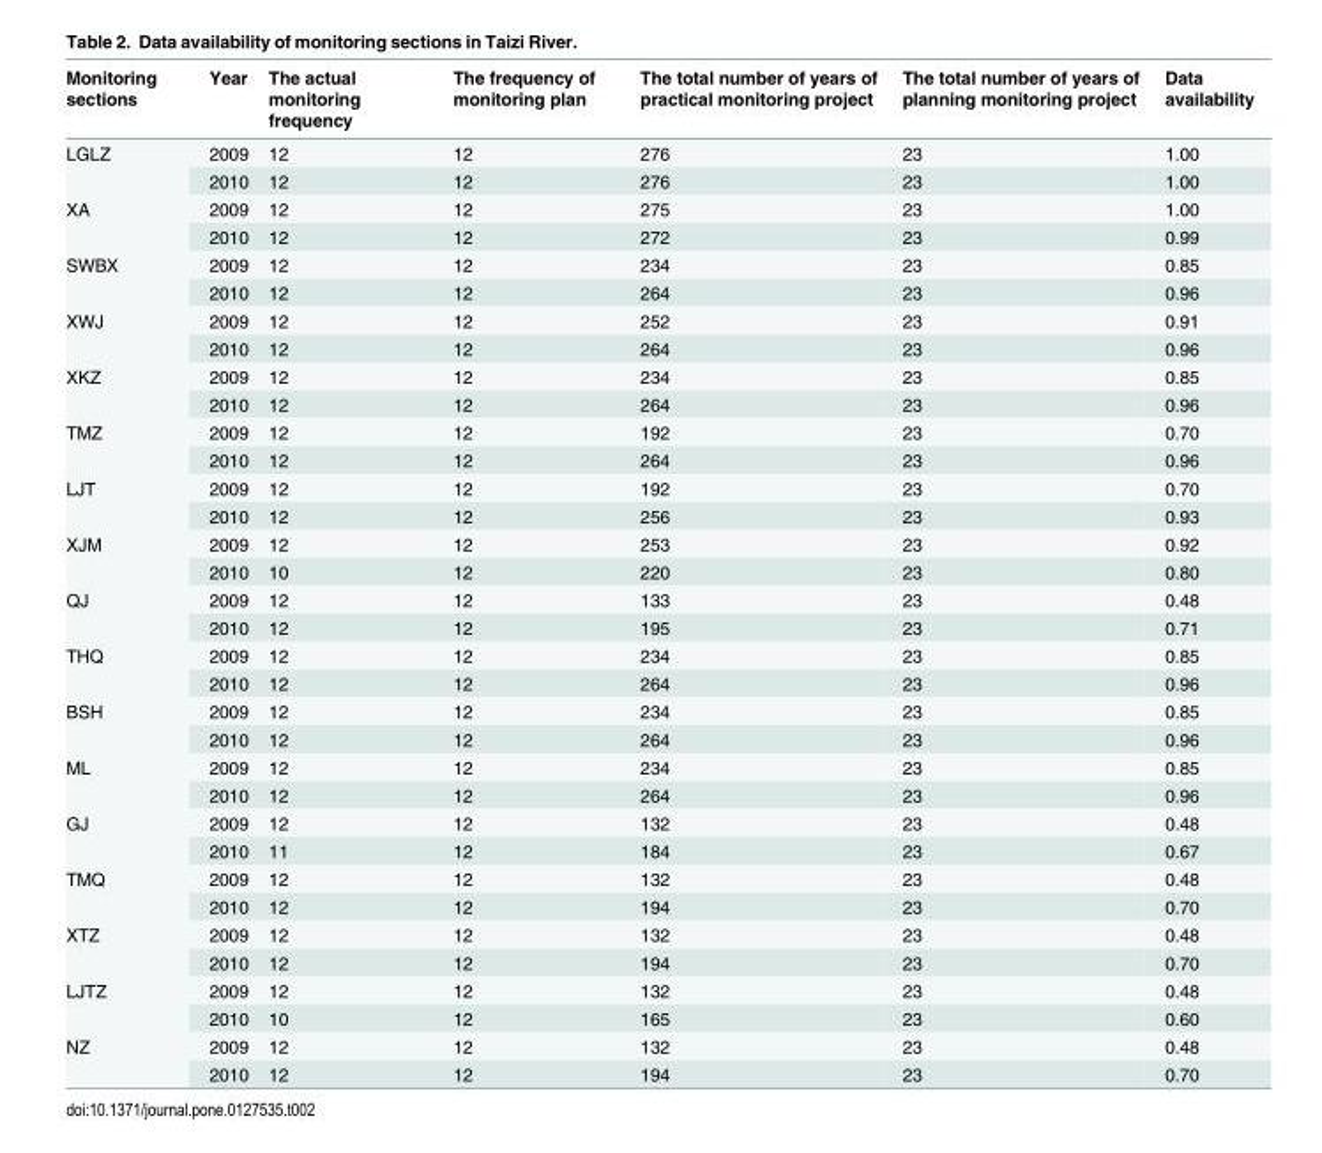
<table><thead><tr><td>Monitoring sections</td><td>Year</td><td>The actual monitoring frequency</td><td>The frequency of monitoring plan</td><td>The total number of years of practical monitoring project</td><td>The total number of years of planning monitoring project</td><td>Data availability</td></tr></thead><tbody><tr><td rowspan="2">LGLZ</td><td>2009</td><td>12</td><td>12</td><td>276</td><td>23</td><td>1.00</td></tr><tr><td>2010</td><td>12</td><td>12</td><td>276</td><td>23</td><td>1.00</td></tr><tr><td rowspan="2">XA</td><td>2009</td><td>12</td><td>12</td><td>275</td><td>23</td><td>1.00</td></tr><tr><td>2010</td><td>12</td><td>12</td><td>272</td><td>23</td><td>0.99</td></tr><tr><td rowspan="2">SWBX</td><td>2009</td><td>12</td><td>12</td><td>234</td><td>23</td><td>0.85</td></tr><tr><td>2010</td><td>12</td><td>12</td><td>264</td><td>23</td><td>0.96</td></tr><tr><td rowspan="2">XWJ</td><td>2009</td><td>12</td><td>12</td><td>252</td><td>23</td><td>0.91</td></tr><tr><td>2010</td><td>12</td><td>12</td><td>264</td><td>23</td><td>0.96</td></tr><tr><td rowspan="2">XKZ</td><td>2009</td><td>12</td><td>12</td><td>234</td><td>23</td><td>0.85</td></tr><tr><td>2010</td><td>12</td><td>12</td><td>264</td><td>23</td><td>0.96</td></tr><tr><td rowspan="2">TMZ</td><td>2009</td><td>12</td><td>12</td><td>192</td><td>23</td><td>0.70</td></tr><tr><td>2010</td><td>12</td><td>12</td><td>264</td><td>23</td><td>0.96</td></tr><tr><td rowspan="2">LJT</td><td>2009</td><td>12</td><td>12</td><td>192</td><td>23</td><td>0.70</td></tr><tr><td>2010</td><td>12</td><td>12</td><td>256</td><td>23</td><td>0.93</td></tr><tr><td rowspan="2">XJM</td><td>2009</td><td>12</td><td>12</td><td>253</td><td>23</td><td>0.92</td></tr><tr><td>2010</td><td>10</td><td>12</td><td>220</td><td>23</td><td>0.80</td></tr><tr><td rowspan="2">QJ</td><td>2009</td><td>12</td><td>12</td><td>133</td><td>23</td><td>0.48</td></tr><tr><td>2010</td><td>12</td><td>12</td><td>195</td><td>23</td><td>0.71</td></tr><tr><td rowspan="2">THQ</td><td>2009</td><td>12</td><td>12</td><td>234</td><td>23</td><td>0.85</td></tr><tr><td>2010</td><td>12</td><td>12</td><td>264</td><td>23</td><td>0.96</td></tr><tr><td rowspan="2">BSH</td><td>2009</td><td>12</td><td>12</td><td>234</td><td>23</td><td>0.85</td></tr><tr><td>2010</td><td>12</td><td>12</td><td>264</td><td>23</td><td>0.96</td></tr><tr><td rowspan="2">ML</td><td>2009</td><td>12</td><td>12</td><td>234</td><td>23</td><td>0.85</td></tr><tr><td>2010</td><td>12</td><td>12</td><td>264</td><td>23</td><td>0.96</td></tr><tr><td rowspan="2">GJ</td><td>2009</td><td>12</td><td>12</td><td>132</td><td>23</td><td>0.48</td></tr><tr><td>2010</td><td>11</td><td>12</td><td>184</td><td>23</td><td>0.67</td></tr><tr><td rowspan="2">TMQ</td><td>2009</td><td>12</td><td>12</td><td>132</td><td>23</td><td>0.48</td></tr><tr><td>2010</td><td>12</td><td>12</td><td>194</td><td>23</td><td>0.70</td></tr><tr><td rowspan="2">XTZ</td><td>2009</td><td>12</td><td>12</td><td>132</td><td>23</td><td>0.48</td></tr><tr><td>2010</td><td>12</td><td>12</td><td>194</td><td>23</td><td>0.70</td></tr><tr><td rowspan="2">LJTZ</td><td>2009</td><td>12</td><td>12</td><td>132</td><td>23</td><td>0.48</td></tr><tr><td>2010</td><td>10</td><td>12</td><td>165</td><td>23</td><td>0.60</td></tr><tr><td rowspan="2">NZ</td><td>2009</td><td>12</td><td>12</td><td>132</td><td>23</td><td>0.48</td></tr><tr><td>2010</td><td>12</td><td>12</td><td>194</td><td>23</td><td>0.70</td></tr></tbody></table>